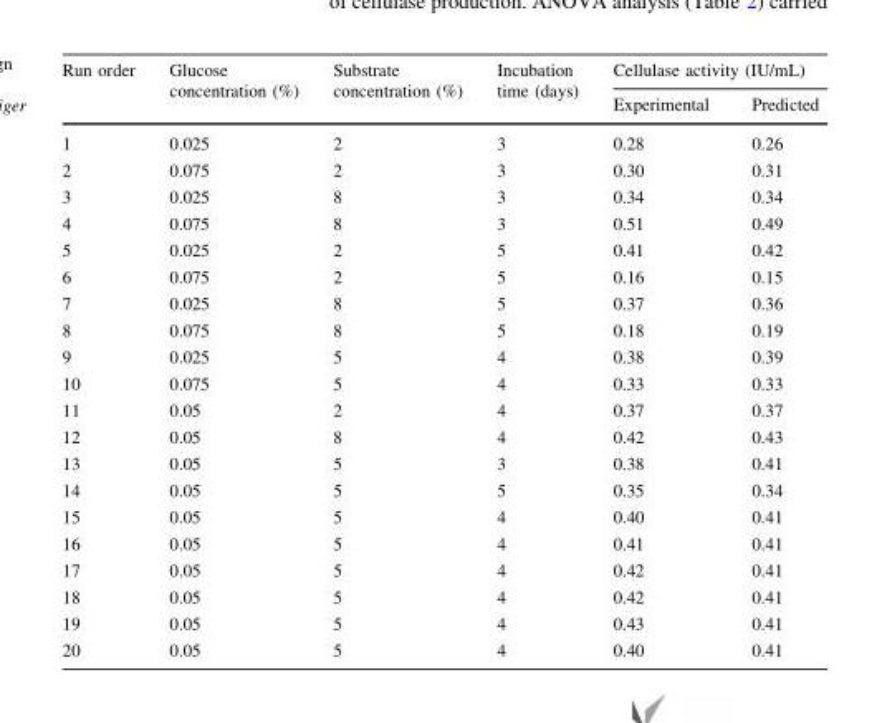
<table><thead><tr><td rowspan="2">Run order</td><td rowspan="2">Glucose concentration (%)</td><td rowspan="2">Substrate concentration (%)</td><td rowspan="2">Incubation time (days)</td><td colspan="2">Cellulase activity (IU/mL)</td></tr><tr><td>Experimental</td><td>Predicted</td></tr></thead><tbody><tr><td>1</td><td>0.025</td><td>2</td><td>3</td><td>0.28</td><td>0.26</td></tr><tr><td>2</td><td>0.075</td><td>2</td><td>3</td><td>0.30</td><td>0.31</td></tr><tr><td>3</td><td>0.025</td><td>8</td><td>3</td><td>0.34</td><td>0.34</td></tr><tr><td>4</td><td>0.075</td><td>8</td><td>3</td><td>0.51</td><td>0.49</td></tr><tr><td>5</td><td>0.025</td><td>2</td><td>5</td><td>0.41</td><td>0.42</td></tr><tr><td>6</td><td>0.075</td><td>2</td><td>5</td><td>0.16</td><td>0.15</td></tr><tr><td>7</td><td>0.025</td><td>8</td><td>5</td><td>0.37</td><td>0.36</td></tr><tr><td>8</td><td>0.075</td><td>8</td><td>5</td><td>0.18</td><td>0.19</td></tr><tr><td>9</td><td>0.025</td><td>5</td><td>4</td><td>0.38</td><td>0.39</td></tr><tr><td>10</td><td>0.075</td><td>5</td><td>4</td><td>0.33</td><td>0.33</td></tr><tr><td>11</td><td>0.05</td><td>2</td><td>4</td><td>0.37</td><td>0.37</td></tr><tr><td>12</td><td>0.05</td><td>8</td><td>4</td><td>0.42</td><td>0.43</td></tr><tr><td>13</td><td>0.05</td><td>5</td><td>3</td><td>0.38</td><td>0.41</td></tr><tr><td>14</td><td>0.05</td><td>5</td><td>5</td><td>0.35</td><td>0.34</td></tr><tr><td>15</td><td>0.05</td><td>5</td><td>4</td><td>0.40</td><td>0.41</td></tr><tr><td>16</td><td>0.05</td><td>5</td><td>4</td><td>0.41</td><td>0.41</td></tr><tr><td>17</td><td>0.05</td><td>5</td><td>4</td><td>0.42</td><td>0.41</td></tr><tr><td>18</td><td>0.05</td><td>5</td><td>4</td><td>0.42</td><td>0.41</td></tr><tr><td>19</td><td>0.05</td><td>5</td><td>4</td><td>0.43</td><td>0.41</td></tr><tr><td>20</td><td>0.05</td><td>5</td><td>4</td><td>0.40</td><td>0.41</td></tr></tbody></table>